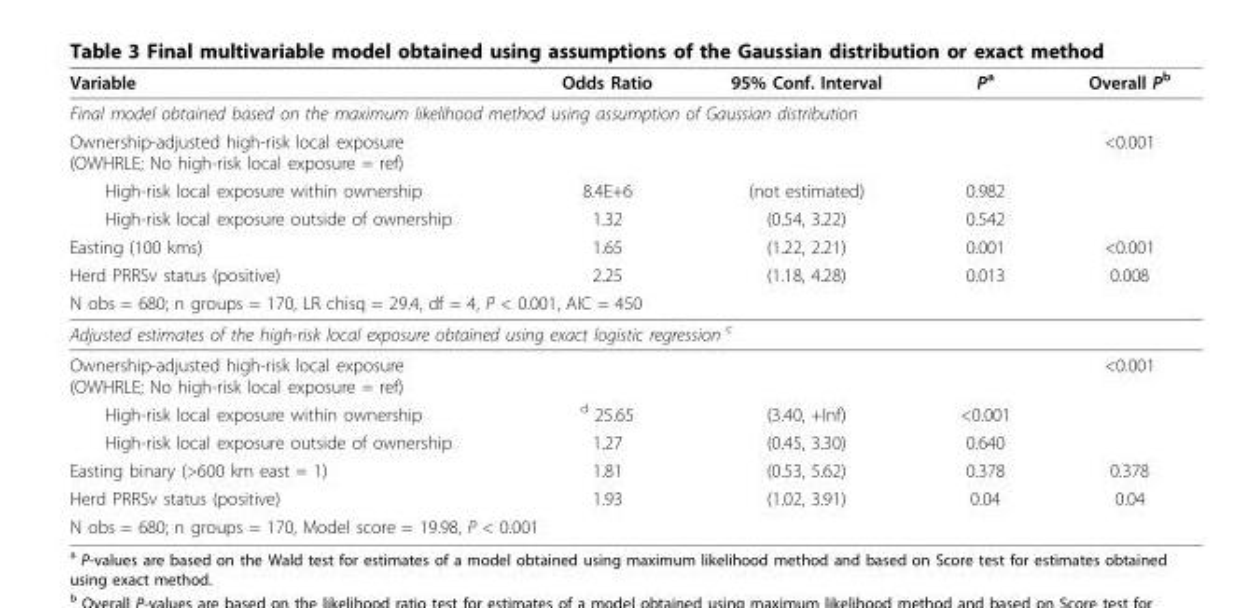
<table><thead><tr><td>Variable</td><td>Odds Ratio</td><td>95% Conf. Interval</td><td>P<sup>a</sup></td><td>Overall P<sup>b</sup></td></tr></thead><tbody><tr><td colspan="5">Final model obtained based on the maximum likelihood method using assumption of Gaussian distribution</td></tr><tr><td>Ownership-adjusted high-risk local exposure (OWHRLE; No high-risk local exposure = ref)</td><td></td><td></td><td></td><td>&lt;0.001</td></tr><tr><td>High-risk local exposure within ownership</td><td>8.4E+6</td><td>(not estimated)</td><td>0.982</td><td></td></tr><tr><td>High-risk local exposure outside of ownership</td><td>1.32</td><td>(0.54, 3.22)</td><td>0.542</td><td></td></tr><tr><td>Easting (100 kms)</td><td>1.65</td><td>(1.22, 2.21)</td><td>0.001</td><td>&lt;0.001</td></tr><tr><td>Herd PRRSv status (positive)</td><td>2.25</td><td>(1.18, 4.28)</td><td>0.013</td><td>0.008</td></tr><tr><td colspan="5">N obs = 680; n groups = 170, LR chisq = 29.4, df = 4, P &lt; 0.001, AIC = 450</td></tr><tr><td colspan="5">Adjusted estimates of the high-risk local exposure obtained using exact logistic regression <sup>c</sup></td></tr><tr><td>Ownership-adjusted high-risk local exposure (OWHRLE; No high-risk local exposure = ref)</td><td></td><td></td><td></td><td>&lt;0.001</td></tr><tr><td>High-risk local exposure within ownership</td><td><sup>d</sup> 25.65</td><td>(3.40, +Inf)</td><td>&lt;0.001</td><td></td></tr><tr><td>High-risk local exposure outside of ownership</td><td>1.27</td><td>(0.45, 3.30)</td><td>0.640</td><td></td></tr><tr><td>Easting binary (&gt;600 km east = 1)</td><td>1.81</td><td>(0.53, 5.62)</td><td>0.378</td><td>0.378</td></tr><tr><td>Herd PRRSv status (positive)</td><td>1.93</td><td>(1.02, 3.91)</td><td>0.04</td><td>0.04</td></tr><tr><td colspan="5">N obs = 680; n groups = 170, Model score = 19.98, P &lt; 0.001</td></tr></tbody></table>